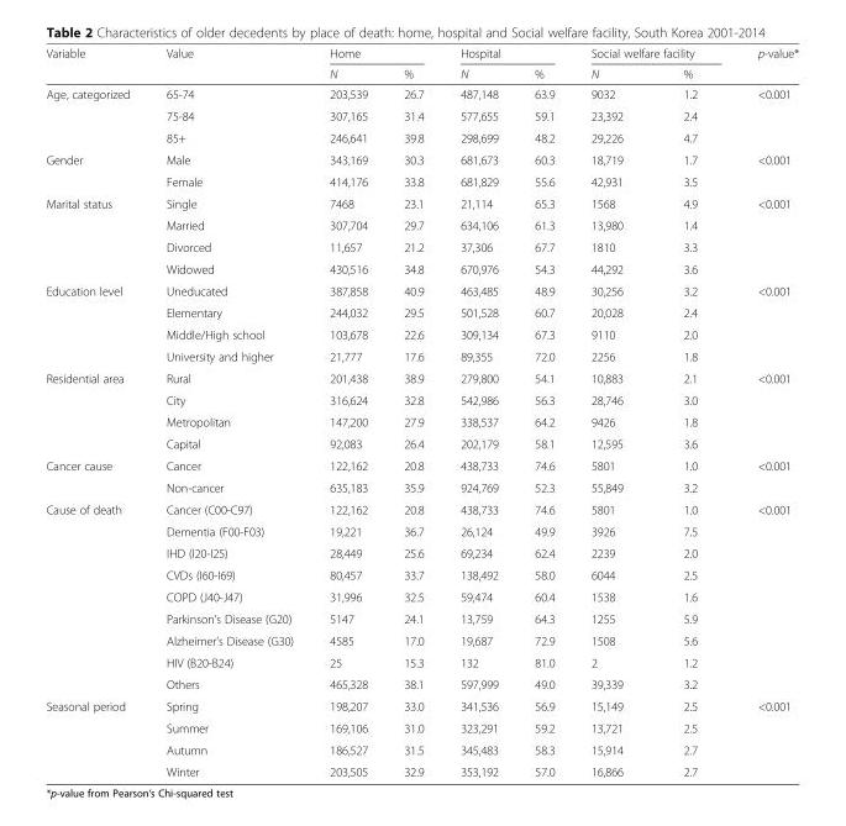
<table><thead><tr><td rowspan="2">Variable</td><td rowspan="2">Value</td><td colspan="2">Home</td><td colspan="2">Hospital</td><td colspan="2">Social welfare facility</td><td rowspan="2">p-value*</td></tr><tr><td>N</td><td>%</td><td>N</td><td>%</td><td>N</td><td>%</td></tr></thead><tbody><tr><td rowspan="3">Age, categorized</td><td>65-74</td><td>203,539</td><td>26.7</td><td>487,148</td><td>63.9</td><td>9032</td><td>1.2</td><td>&lt;0.001</td></tr><tr><td>75-84</td><td>307,165</td><td>31.4</td><td>577,655</td><td>59.1</td><td>23,392</td><td>2.4</td><td></td></tr><tr><td>85+</td><td>246,641</td><td>39.8</td><td>298,699</td><td>48.2</td><td>29,226</td><td>4.7</td><td></td></tr><tr><td rowspan="2">Gender</td><td>Male</td><td>343,169</td><td>30.3</td><td>681,673</td><td>60.3</td><td>18,719</td><td>1.7</td><td>&lt;0.001</td></tr><tr><td>Female</td><td>414,176</td><td>33.8</td><td>681,829</td><td>55.6</td><td>42,931</td><td>3.5</td><td></td></tr><tr><td rowspan="4">Marital status</td><td>Single</td><td>7468</td><td>23.1</td><td>21,114</td><td>65.3</td><td>1568</td><td>4.9</td><td>&lt;0.001</td></tr><tr><td>Married</td><td>307,704</td><td>29.7</td><td>634,106</td><td>61.3</td><td>13,980</td><td>1.4</td><td></td></tr><tr><td>Divorced</td><td>11,657</td><td>21.2</td><td>37,306</td><td>67.7</td><td>1810</td><td>3.3</td><td></td></tr><tr><td>Widowed</td><td>430,516</td><td>34.8</td><td>670,976</td><td>54.3</td><td>44,292</td><td>3.6</td><td></td></tr><tr><td rowspan="4">Education level</td><td>Uneducated</td><td>387,858</td><td>40.9</td><td>463,485</td><td>48.9</td><td>30,256</td><td>3.2</td><td>&lt;0.001</td></tr><tr><td>Elementary</td><td>244,032</td><td>29.5</td><td>501,528</td><td>60.7</td><td>20,028</td><td>2.4</td><td></td></tr><tr><td>Middle/High school</td><td>103,678</td><td>22.6</td><td>309,134</td><td>67.3</td><td>9110</td><td>2.0</td><td></td></tr><tr><td>University and higher</td><td>21,777</td><td>17.6</td><td>89,355</td><td>72.0</td><td>2256</td><td>1.8</td><td></td></tr><tr><td rowspan="4">Residential area</td><td>Rural</td><td>201,438</td><td>38.9</td><td>279,800</td><td>54.1</td><td>10,883</td><td>2.1</td><td>&lt;0.001</td></tr><tr><td>City</td><td>316,624</td><td>32.8</td><td>542,986</td><td>56.3</td><td>28,746</td><td>3.0</td><td></td></tr><tr><td>Metropolitan</td><td>147,200</td><td>27.9</td><td>338,537</td><td>64.2</td><td>9426</td><td>1.8</td><td></td></tr><tr><td>Capital</td><td>92,083</td><td>26.4</td><td>202,179</td><td>58.1</td><td>12,595</td><td>3.6</td><td></td></tr><tr><td rowspan="2">Cancer cause</td><td>Cancer</td><td>122,162</td><td>20.8</td><td>438,733</td><td>74.6</td><td>5801</td><td>1.0</td><td>&lt;0.001</td></tr><tr><td>Non-cancer</td><td>635,183</td><td>35.9</td><td>924,769</td><td>52.3</td><td>55,849</td><td>3.2</td><td></td></tr><tr><td rowspan="9">Cause of death</td><td>Cancer (C00-C97)</td><td>122,162</td><td>20.8</td><td>438,733</td><td>74.6</td><td>5801</td><td>1.0</td><td>&lt;0.001</td></tr><tr><td>Dementia (F00-F03)</td><td>19,221</td><td>36.7</td><td>26,124</td><td>49.9</td><td>3926</td><td>7.5</td><td></td></tr><tr><td>IHD (I20-I25)</td><td>28,449</td><td>25.6</td><td>69,234</td><td>62.4</td><td>2239</td><td>2.0</td><td></td></tr><tr><td>CVDs (I60-I69)</td><td>80,457</td><td>33.7</td><td>138,492</td><td>58.0</td><td>6044</td><td>2.5</td><td></td></tr><tr><td>COPD (J40-J47)</td><td>31,996</td><td>32.5</td><td>59,474</td><td>60.4</td><td>1538</td><td>1.6</td><td></td></tr><tr><td>Parkinson’s Disease (G20)</td><td>5147</td><td>24.1</td><td>13,759</td><td>64.3</td><td>1255</td><td>5.9</td><td></td></tr><tr><td>Alzheimer’s Disease (G30)</td><td>4585</td><td>17.0</td><td>19,687</td><td>72.9</td><td>1508</td><td>5.6</td><td></td></tr><tr><td>HIV (B20-B24)</td><td>25</td><td>15.3</td><td>132</td><td>81.0</td><td>2</td><td>1.2</td><td></td></tr><tr><td>Others</td><td>465,328</td><td>38.1</td><td>597,999</td><td>49.0</td><td>39,339</td><td>3.2</td><td></td></tr><tr><td rowspan="4">Seasonal period</td><td>Spring</td><td>198,207</td><td>33.0</td><td>341,536</td><td>56.9</td><td>15,149</td><td>2.5</td><td>&lt;0.001</td></tr><tr><td>Summer</td><td>169,106</td><td>31.0</td><td>323,291</td><td>59.2</td><td>13,721</td><td>2.5</td><td></td></tr><tr><td>Autumn</td><td>186,527</td><td>31.5</td><td>345,483</td><td>58.3</td><td>15,914</td><td>2.7</td><td></td></tr><tr><td>Winter</td><td>203,505</td><td>32.9</td><td>353,192</td><td>57.0</td><td>16,866</td><td>2.7</td><td></td></tr></tbody></table>